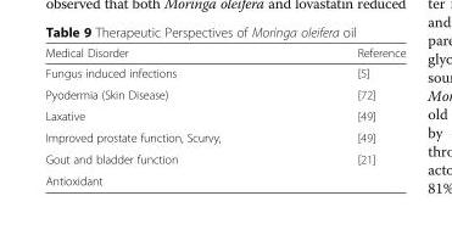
<table><thead><tr><td>Medical Disorder</td><td>Reference</td></tr></thead><tbody><tr><td>Fungus induced infections</td><td>[5]</td></tr><tr><td>Pyodermia (Skin Disease)</td><td>[72]</td></tr><tr><td>Laxative</td><td>[49]</td></tr><tr><td>Improved prostate function, Scurvy,</td><td>[49]</td></tr><tr><td>Gout and bladder function</td><td rowspan="2">[21]</td></tr><tr><td>Antioxidant</td></tr></tbody></table>